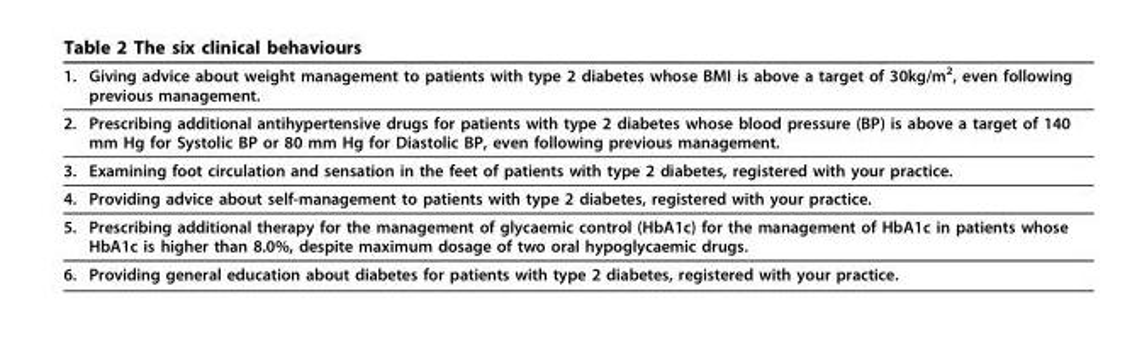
<table><thead><tr><td>1.</td><td>Giving advice about weight management to patients with type 2 diabetes whose BMI is above a target of 30kg/m<sup>2</sup>, even following previous management.</td></tr></thead><tbody><tr><td>2.</td><td>Prescribing additional antihypertensive drugs for patients with type 2 diabetes whose blood pressure (BP) is above a target of 140 mm Hg for Systolic BP or 80 mm Hg for Diastolic BP, even following previous management.</td></tr><tr><td>3.</td><td>Examining foot circulation and sensation in the feet of patients with type 2 diabetes, registered with your practice.</td></tr><tr><td>4.</td><td>Providing advice about self-management to patients with type 2 diabetes, registered with your practice.</td></tr><tr><td>5.</td><td>Prescribing additional therapy for the management of glycaemic control (HbA1c) for the management of HbA1c in patients whose HbA1c is higher than 8.0%, despite maximum dosage of two oral hypoglycaemic drugs.</td></tr><tr><td>6.</td><td>Providing general education about diabetes for patients with type 2 diabetes, registered with your practice.</td></tr></tbody></table>